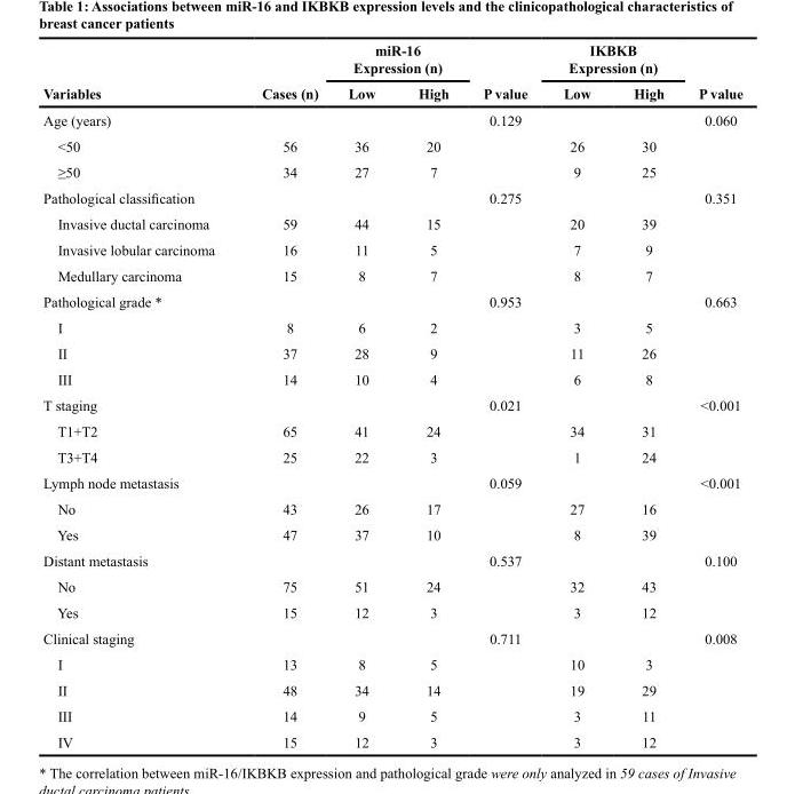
<table><thead><tr><td rowspan="2">Variables</td><td rowspan="2">Cases (n)</td><td colspan="2">miR-16 Expression (n)</td><td rowspan="2">P value</td><td colspan="2">IKBKB Expression (n)</td><td rowspan="2">P value</td></tr><tr><td>Low</td><td>High</td><td>Low</td><td>High</td></tr></thead><tbody><tr><td>Age (years)</td><td></td><td></td><td></td><td>0.129</td><td></td><td></td><td>0.060</td></tr><tr><td>&lt;50</td><td>56</td><td>36</td><td>20</td><td></td><td>26</td><td>30</td><td></td></tr><tr><td>≥50</td><td>34</td><td>27</td><td>7</td><td></td><td>9</td><td>25</td><td></td></tr><tr><td>Pathological classification</td><td></td><td></td><td></td><td>0.275</td><td></td><td></td><td>0.351</td></tr><tr><td>Invasive ductal carcinoma</td><td>59</td><td>44</td><td>15</td><td></td><td>20</td><td>39</td><td></td></tr><tr><td>Invasive lobular carcinoma</td><td>16</td><td>11</td><td>5</td><td></td><td>7</td><td>9</td><td></td></tr><tr><td>Medullary carcinoma</td><td>15</td><td>8</td><td>7</td><td></td><td>8</td><td>7</td><td></td></tr><tr><td>Pathological grade *</td><td></td><td></td><td></td><td>0.953</td><td></td><td></td><td>0.663</td></tr><tr><td>I</td><td>8</td><td>6</td><td>2</td><td></td><td>3</td><td>5</td><td></td></tr><tr><td>II</td><td>37</td><td>28</td><td>9</td><td></td><td>11</td><td>26</td><td></td></tr><tr><td>III</td><td>14</td><td>10</td><td>4</td><td></td><td>6</td><td>8</td><td></td></tr><tr><td>T staging</td><td></td><td></td><td></td><td>0.021</td><td></td><td></td><td>&lt;0.001</td></tr><tr><td>T1+T2</td><td>65</td><td>41</td><td>24</td><td></td><td>34</td><td>31</td><td></td></tr><tr><td>T3+T4</td><td>25</td><td>22</td><td>3</td><td></td><td>1</td><td>24</td><td></td></tr><tr><td>Lymph node metastasis</td><td></td><td></td><td></td><td>0.059</td><td></td><td></td><td>&lt;0.001</td></tr><tr><td>No</td><td>43</td><td>26</td><td>17</td><td></td><td>27</td><td>16</td><td></td></tr><tr><td>Yes</td><td>47</td><td>37</td><td>10</td><td></td><td>8</td><td>39</td><td></td></tr><tr><td>Distant metastasis</td><td></td><td></td><td></td><td>0.537</td><td></td><td></td><td>0.100</td></tr><tr><td>No</td><td>75</td><td>51</td><td>24</td><td></td><td>32</td><td>43</td><td></td></tr><tr><td>Yes</td><td>15</td><td>12</td><td>3</td><td></td><td>3</td><td>12</td><td></td></tr><tr><td>Clinical staging</td><td></td><td></td><td></td><td>0.711</td><td></td><td></td><td>0.008</td></tr><tr><td>I</td><td>13</td><td>8</td><td>5</td><td></td><td>10</td><td>3</td><td></td></tr><tr><td>II</td><td>48</td><td>34</td><td>14</td><td></td><td>19</td><td>29</td><td></td></tr><tr><td>III</td><td>14</td><td>9</td><td>5</td><td></td><td>3</td><td>11</td><td></td></tr><tr><td>IV</td><td>15</td><td>12</td><td>3</td><td></td><td>3</td><td>12</td><td></td></tr></tbody></table>